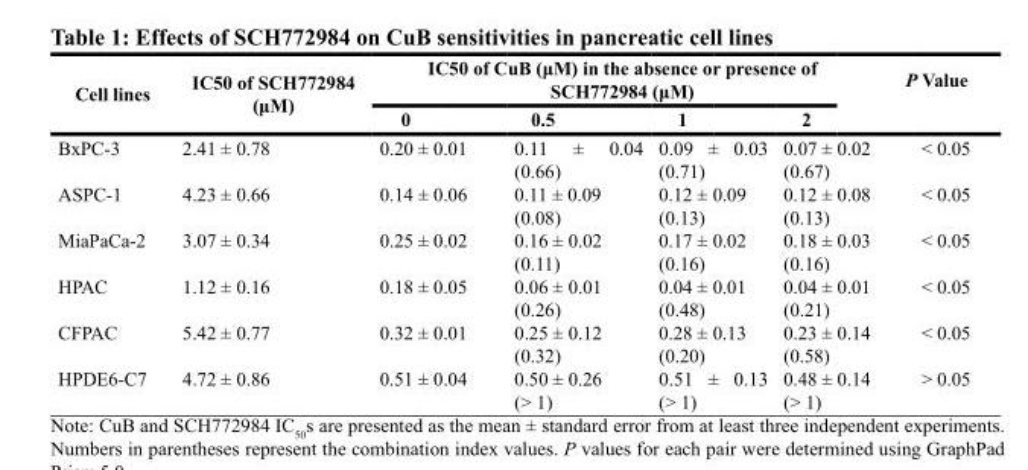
<table><thead><tr><td rowspan="2">Cell lines</td><td rowspan="2">IC50 of SCH772984 (μM)</td><td colspan="4">IC50 of CuB (μM) in the absence or presence of SCH772984 (μM)</td><td rowspan="2">P Value</td></tr><tr><td>0</td><td>0.5</td><td>1</td><td>2</td></tr></thead><tbody><tr><td>BxPC-3 ASPC-1 MiaPaCa-2 HPAC CFPAC HPDE6-C7</td><td>2.41 ± 0.78 4.23 ± 0.66 3.07 ± 0.34 1.12 ± 0.16 5.42 ± 0.77 4.72 ± 0.86</td><td>0.20 ± 0.01 0.14 ± 0.06 0.25 ± 0.02 0.18 ± 0.05 0.32 ± 0.01 0.51 ± 0.04</td><td>0.11 ± 0.04 (0.66) 0.11 ± 0.09 (0.08) 0.16 ± 0.02 (0.11) 0.06 ± 0.01 (0.26) 0.25 ± 0.12 (0.32) 0.50 ± 0.26 (&gt; 1)</td><td>0.09 ± 0.03 (0.71) 0.12 ± 0.09 (0.13) 0.17 ± 0.02 (0.16) 0.04 ± 0.01 (0.48) 0.28 ± 0.13 (0.20) 0.51 ± 0.13 (&gt; 1)</td><td>0.07 ± 0.02 (0.67) 0.12 ± 0.08 (0.13) 0.18 ± 0.03 (0.16) 0.04 ± 0.01 (0.21) 0.23 ± 0.14 (0.58) 0.48 ± 0.14 (&gt; 1)</td><td>&lt; 0.05 &lt; 0.05 &lt; 0.05 &lt; 0.05 &lt; 0.05 &gt; 0.05</td></tr></tbody></table>